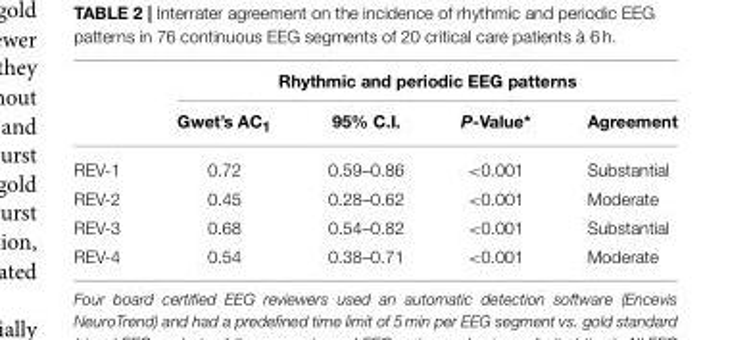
<table><thead><tr><td rowspan="2"></td><td colspan="4">Rhythmic and periodic EEG patterns</td></tr><tr><td>Gwet’s AC<sub>1</sub></td><td>95% C.I.</td><td>P-Value*</td><td>Agreement</td></tr></thead><tbody><tr><td>REV-1</td><td>0.72</td><td>0.59–0.86</td><td>&lt;0.001</td><td>Substantial</td></tr><tr><td>REV-2</td><td>0.45</td><td>0.28–0.62</td><td>&lt;0.001</td><td>Moderate</td></tr><tr><td>REV-3</td><td>0.68</td><td>0.54–0.82</td><td>&lt;0.001</td><td>Substantial</td></tr><tr><td>REV-4</td><td>0.54</td><td>0.38–0.71</td><td>&lt;0.001</td><td>Moderate</td></tr></tbody></table>